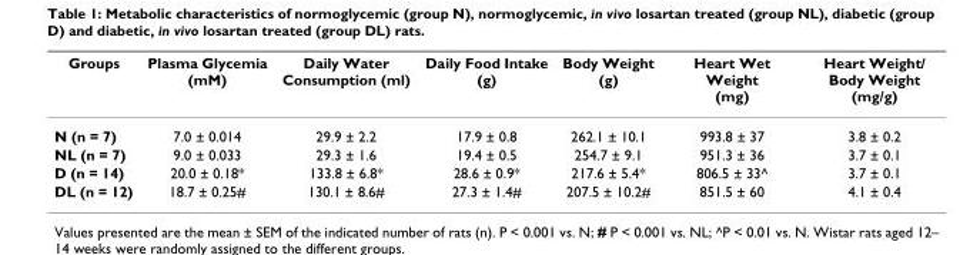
<table><thead><tr><td>Groups</td><td>Plasma Glycemia (mM)</td><td>Daily Water Consumption (ml)</td><td>Daily Food Intake (g)</td><td>Body Weight (g)</td><td>Heart Wet Weight (mg)</td><td>Heart Weight/ Body Weight (mg/g)</td></tr></thead><tbody><tr><td>N (n = 7)</td><td>7.0 ± 0.014</td><td>29.9 ± 2.2</td><td>17.9 ± 0.8</td><td>262.1 ± 10.1</td><td>993.8 ± 37</td><td>3.8 ± 0.2</td></tr><tr><td>NL (n = 7)</td><td>9.0 ± 0.033</td><td>29.3 ± 1.6</td><td>19.4 ± 0.5</td><td>254.7 ± 9.1</td><td>951.3 ± 36</td><td>3.7 ± 0.1</td></tr><tr><td>D (n = 14)</td><td>20.0 ± 0.18*</td><td>133.8 ± 6.8*</td><td>28.6 ± 0.9*</td><td>217.6 ± 5.4*</td><td>806.5 ± 33^</td><td>3.7 ± 0.1</td></tr><tr><td>DL (n = 12)</td><td>18.7 ± 0.25#</td><td>130.1 ± 8.6#</td><td>27.3 ± 1.4#</td><td>207.5 ± 10.2#</td><td>851.5 ± 60</td><td>4.1 ± 0.4</td></tr></tbody></table>